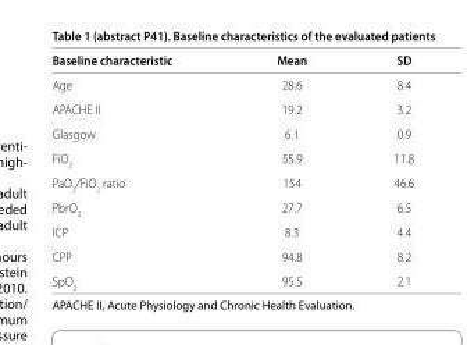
<table><thead><tr><td>Baseline characteristic</td><td>Mean</td><td>SD</td></tr></thead><tbody><tr><td>Age</td><td>28.6</td><td>8.4</td></tr><tr><td>APACHE II</td><td>19.2</td><td>3.2</td></tr><tr><td>Glasgow</td><td>6.1</td><td>0.9</td></tr><tr><td>FiO<sub>2</sub></td><td>55.9</td><td>11.8</td></tr><tr><td>PaO<sub>2</sub>/FiO<sub>2</sub> ratio</td><td>154</td><td>46.6</td></tr><tr><td>PbrO<sub>2</sub></td><td>27.7</td><td>6.5</td></tr><tr><td>ICP</td><td>8.3</td><td>4.4</td></tr><tr><td>CPP</td><td>94.8</td><td>8.2</td></tr><tr><td>SpO<sub>2</sub></td><td>95.5</td><td>2.1</td></tr></tbody></table>